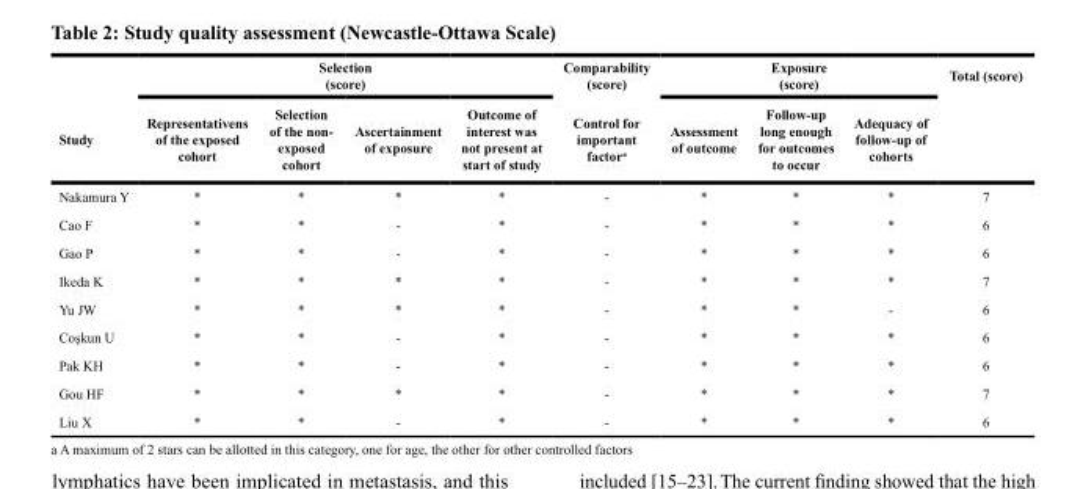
<table><thead><tr><td rowspan="2">Study</td><td colspan="4">Selection (score)</td><td rowspan="2">Comparability (score) Control for important factor<sup>a</sup></td><td colspan="3">Exposure (score)</td><td rowspan="2">Total (score)</td></tr><tr><td>Representativens of the exposed cohort</td><td>Selection of the non- exposed cohort</td><td>Ascertainment of exposure</td><td>Outcome of interest was not present at start of study</td><td>Assessment of outcome</td><td>Follow-up long enough for outcomes to occur</td><td>Adequacy of follow-up of cohorts</td></tr></thead><tbody><tr><td>Nakamura Y</td><td>*</td><td>*</td><td>*</td><td>*</td><td>-</td><td>*</td><td>*</td><td>*</td><td>7</td></tr><tr><td>Cao F</td><td>*</td><td>*</td><td>-</td><td>*</td><td>-</td><td>*</td><td>*</td><td>*</td><td>6</td></tr><tr><td>Gao P</td><td>*</td><td>*</td><td>-</td><td>*</td><td>-</td><td>*</td><td>*</td><td>*</td><td>6</td></tr><tr><td>Ikeda K</td><td>*</td><td>*</td><td>*</td><td>*</td><td>-</td><td>*</td><td>*</td><td>*</td><td>7</td></tr><tr><td>Yu JW</td><td>*</td><td>*</td><td>*</td><td>*</td><td>-</td><td>*</td><td>*</td><td>-</td><td>6</td></tr><tr><td>Coşkun U</td><td>*</td><td>*</td><td>-</td><td>*</td><td>-</td><td>*</td><td>*</td><td>*</td><td>6</td></tr><tr><td>Pak KH</td><td>*</td><td>*</td><td>-</td><td>*</td><td>-</td><td>*</td><td>*</td><td>*</td><td>6</td></tr><tr><td>Gou HF</td><td>*</td><td>*</td><td>*</td><td>*</td><td>-</td><td>*</td><td>*</td><td>*</td><td>7</td></tr><tr><td>Liu X</td><td>*</td><td>*</td><td>-</td><td>*</td><td>-</td><td>*</td><td>*</td><td>*</td><td>6</td></tr></tbody></table>